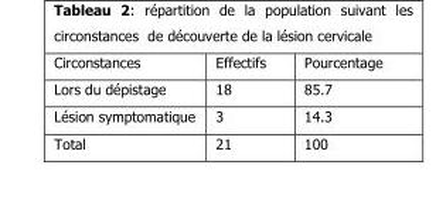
<table><thead><tr><td>Circonstances</td><td>Effectifs</td><td>Pourcentage</td></tr></thead><tbody><tr><td>Lors du dépistage</td><td>18</td><td>85.7</td></tr><tr><td>Lésion symptomatique</td><td>3</td><td>14.3</td></tr><tr><td>Total</td><td>21</td><td>100</td></tr></tbody></table>